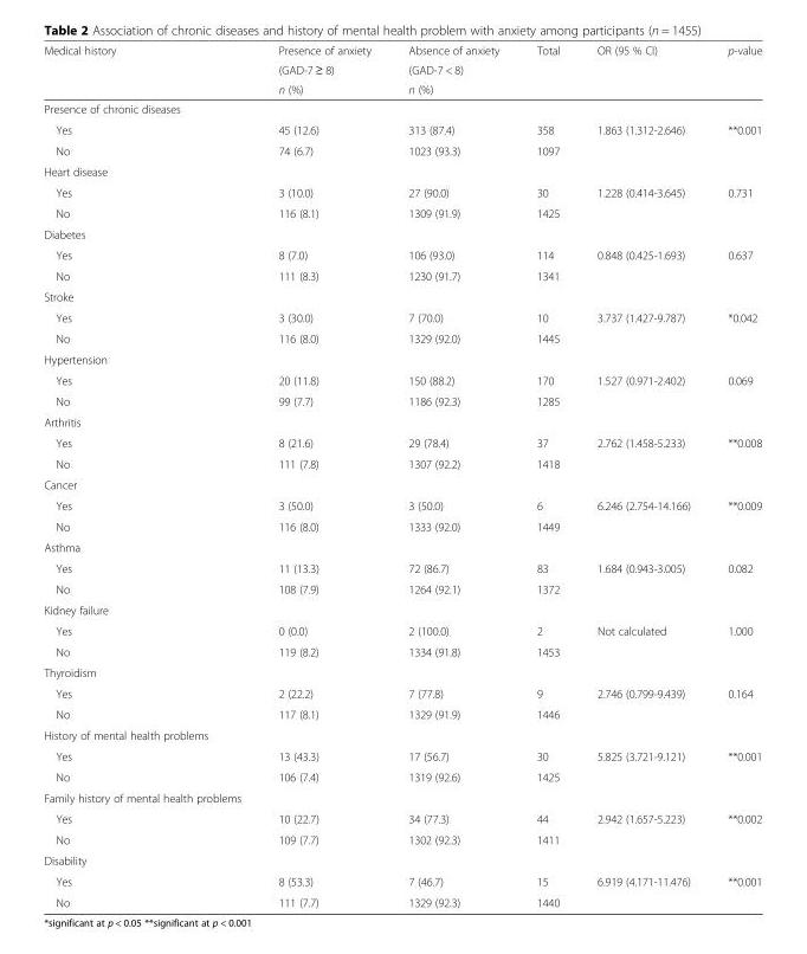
<table><thead><tr><td rowspan="3">Medical history</td><td rowspan="3">Presence of anxiety (GAD-7 ≥ 8) n (%)</td><td rowspan="3">Absence of anxiety (GAD-7 &lt; 8) n (%)</td><td rowspan="3">Total</td><td rowspan="3">OR (95 % CI)</td><td rowspan="3">p-value</td></tr><tr></tr><tr></tr></thead><tbody><tr><td colspan="6">Presence of chronic diseases</td></tr><tr><td>Yes</td><td>45 (12.6)</td><td>313 (87.4)</td><td>358</td><td>1.863 (1.312-2.646)</td><td>**0.001</td></tr><tr><td>No</td><td>74 (6.7)</td><td>1023 (93.3)</td><td>1097</td><td></td><td></td></tr><tr><td colspan="6">Heart disease</td></tr><tr><td>Yes</td><td>3 (10.0)</td><td>27 (90.0)</td><td>30</td><td>1.228 (0.414-3.645)</td><td>0.731</td></tr><tr><td>No</td><td>116 (8.1)</td><td>1309 (91.9)</td><td>1425</td><td></td><td></td></tr><tr><td colspan="6">Diabetes</td></tr><tr><td>Yes</td><td>8 (7.0)</td><td>106 (93.0)</td><td>114</td><td>0.848 (0.425-1.693)</td><td>0.637</td></tr><tr><td>No</td><td>111 (8.3)</td><td>1230 (91.7)</td><td>1341</td><td></td><td></td></tr><tr><td colspan="6">Stroke</td></tr><tr><td>Yes</td><td>3 (30.0)</td><td>7 (70.0)</td><td>10</td><td>3.737 (1.427-9.787)</td><td>*0.042</td></tr><tr><td>No</td><td>116 (8.0)</td><td>1329 (92.0)</td><td>1445</td><td></td><td></td></tr><tr><td colspan="6">Hypertension</td></tr><tr><td>Yes</td><td>20 (11.8)</td><td>150 (88.2)</td><td>170</td><td>1.527 (0.971-2.402)</td><td>0.069</td></tr><tr><td>No</td><td>99 (7.7)</td><td>1186 (92.3)</td><td>1285</td><td></td><td></td></tr><tr><td colspan="6">Arthritis</td></tr><tr><td>Yes</td><td>8 (21.6)</td><td>29 (78.4)</td><td>37</td><td>2.762 (1.458-5.233)</td><td>**0.008</td></tr><tr><td>No</td><td>111 (7.8)</td><td>1307 (92.2)</td><td>1418</td><td></td><td></td></tr><tr><td colspan="6">Cancer</td></tr><tr><td>Yes</td><td>3 (50.0)</td><td>3 (50.0)</td><td>6</td><td>6.246 (2.754-14.166)</td><td>**0.009</td></tr><tr><td>No</td><td>116 (8.0)</td><td>1333 (92.0)</td><td>1449</td><td></td><td></td></tr><tr><td colspan="6">Asthma</td></tr><tr><td>Yes</td><td>11 (13.3)</td><td>72 (86.7)</td><td>83</td><td>1.684 (0.943-3.005)</td><td>0.082</td></tr><tr><td>No</td><td>108 (7.9)</td><td>1264 (92.1)</td><td>1372</td><td></td><td></td></tr><tr><td colspan="6">Kidney failure</td></tr><tr><td>Yes</td><td>0 (0.0)</td><td>2 (100.0)</td><td>2</td><td>Not calculated</td><td>1.000</td></tr><tr><td>No</td><td>119 (8.2)</td><td>1334 (91.8)</td><td>1453</td><td></td><td></td></tr><tr><td colspan="6">Thyroidism</td></tr><tr><td>Yes</td><td>2 (22.2)</td><td>7 (77.8)</td><td>9</td><td>2.746 (0.799-9.439)</td><td>0.164</td></tr><tr><td>No</td><td>117 (8.1)</td><td>1329 (91.9)</td><td>1446</td><td></td><td></td></tr><tr><td colspan="6">History of mental health problems</td></tr><tr><td>Yes</td><td>13 (43.3)</td><td>17 (56.7)</td><td>30</td><td>5.825 (3.721-9.121)</td><td>**0.001</td></tr><tr><td>No</td><td>106 (7.4)</td><td>1319 (92.6)</td><td>1425</td><td></td><td></td></tr><tr><td colspan="6">Family history of mental health problems</td></tr><tr><td>Yes</td><td>10 (22.7)</td><td>34 (77.3)</td><td>44</td><td>2.942 (1.657-5.223)</td><td>**0.002</td></tr><tr><td>No</td><td>109 (7.7)</td><td>1302 (92.3)</td><td>1411</td><td></td><td></td></tr><tr><td colspan="6">Disability</td></tr><tr><td>Yes</td><td>8 (53.3)</td><td>7 (46.7)</td><td>15</td><td>6.919 (4.171-11.476)</td><td>**0.001</td></tr><tr><td>No</td><td>111 (7.7)</td><td>1329 (92.3)</td><td>1440</td><td></td><td></td></tr></tbody></table>